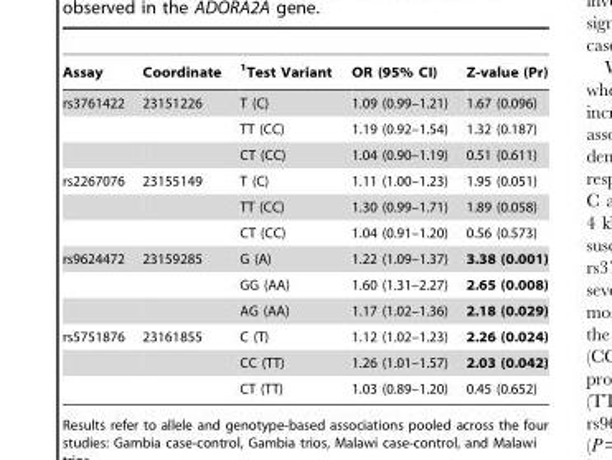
<table><thead><tr><td>Assay</td><td>Coordinate</td><td>1Test Variant</td><td>OR (95% CI)</td><td>Z-value (Pr)</td></tr></thead><tbody><tr><td rowspan="3">rs3761422</td><td>23151226</td><td>T (C)</td><td>1.09 (0.99–1.21)</td><td>1.67 (0.096)</td></tr><tr><td></td><td>TT (CC)</td><td>1.19 (0.92–1.54)</td><td>1.32 (0.187)</td></tr><tr><td></td><td>CT (CC)</td><td>1.04 (0.90–1.19)</td><td>0.51 (0.611)</td></tr><tr><td rowspan="3">rs2267076</td><td>23155149</td><td>T (C)</td><td>1.11 (1.00–1.23)</td><td>1.95 (0.051)</td></tr><tr><td></td><td>TT (CC)</td><td>1.30 (0.99–1.71)</td><td>1.89 (0.058)</td></tr><tr><td></td><td>CT (CC)</td><td>1.04 (0.91–1.20)</td><td>0.56 (0.573)</td></tr><tr><td rowspan="3">rs9624472</td><td>23159285</td><td>G (A)</td><td>1.22 (1.09–1.37)</td><td>3.38 (0.001)</td></tr><tr><td></td><td>GG (AA)</td><td>1.60 (1.31–2.27)</td><td>2.65 (0.008)</td></tr><tr><td></td><td>AG (AA)</td><td>1.17 (1.02–1.36)</td><td>2.18 (0.029)</td></tr><tr><td rowspan="3">rs5751876</td><td>23161855</td><td>C (T)</td><td>1.12 (1.02–1.23)</td><td>2.26 (0.024)</td></tr><tr><td></td><td>CC (TT)</td><td>1.26 (1.01–1.57)</td><td>2.03 (0.042)</td></tr><tr><td></td><td>CT (TT)</td><td>1.03 (0.89–1.20)</td><td>0.45 (0.652)</td></tr></tbody></table>